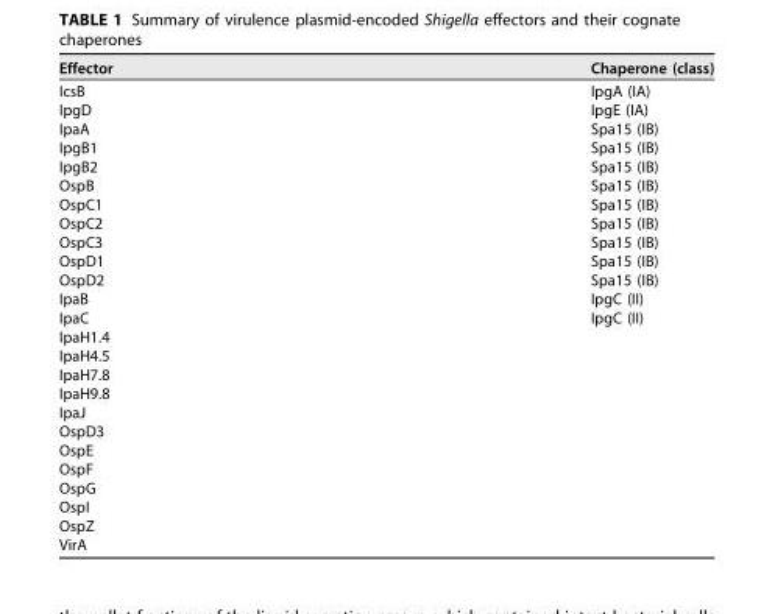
<table><thead><tr><td>Effector</td><td>Chaperone (class)</td></tr></thead><tbody><tr><td>IcsB</td><td>IpgA (IA)</td></tr><tr><td>IpgD</td><td>IpgE (IA)</td></tr><tr><td>IpaA</td><td>Spa15 (IB)</td></tr><tr><td>IpgB1</td><td>Spa15 (IB)</td></tr><tr><td>IpgB2</td><td>Spa15 (IB)</td></tr><tr><td>OspB</td><td>Spa15 (IB)</td></tr><tr><td>OspC1</td><td>Spa15 (IB)</td></tr><tr><td>OspC2</td><td>Spa15 (IB)</td></tr><tr><td>OspC3</td><td>Spa15 (IB)</td></tr><tr><td>OspD1</td><td>Spa15 (IB)</td></tr><tr><td>OspD2</td><td>Spa15 (IB)</td></tr><tr><td>IpaB</td><td>IpgC (II)</td></tr><tr><td>IpaC</td><td>IpgC (II)</td></tr><tr><td colspan="2">IpaH1.4</td></tr><tr><td colspan="2">IpaH4.5</td></tr><tr><td colspan="2">IpaH7.8</td></tr><tr><td colspan="2">IpaH9.8</td></tr><tr><td colspan="2">IpaJ</td></tr><tr><td colspan="2">OspD3</td></tr><tr><td colspan="2">OspE</td></tr><tr><td colspan="2">OspF</td></tr><tr><td colspan="2">OspG</td></tr><tr><td colspan="2">OspI</td></tr><tr><td colspan="2">OspZ</td></tr><tr><td>VirA</td><td></td></tr></tbody></table>